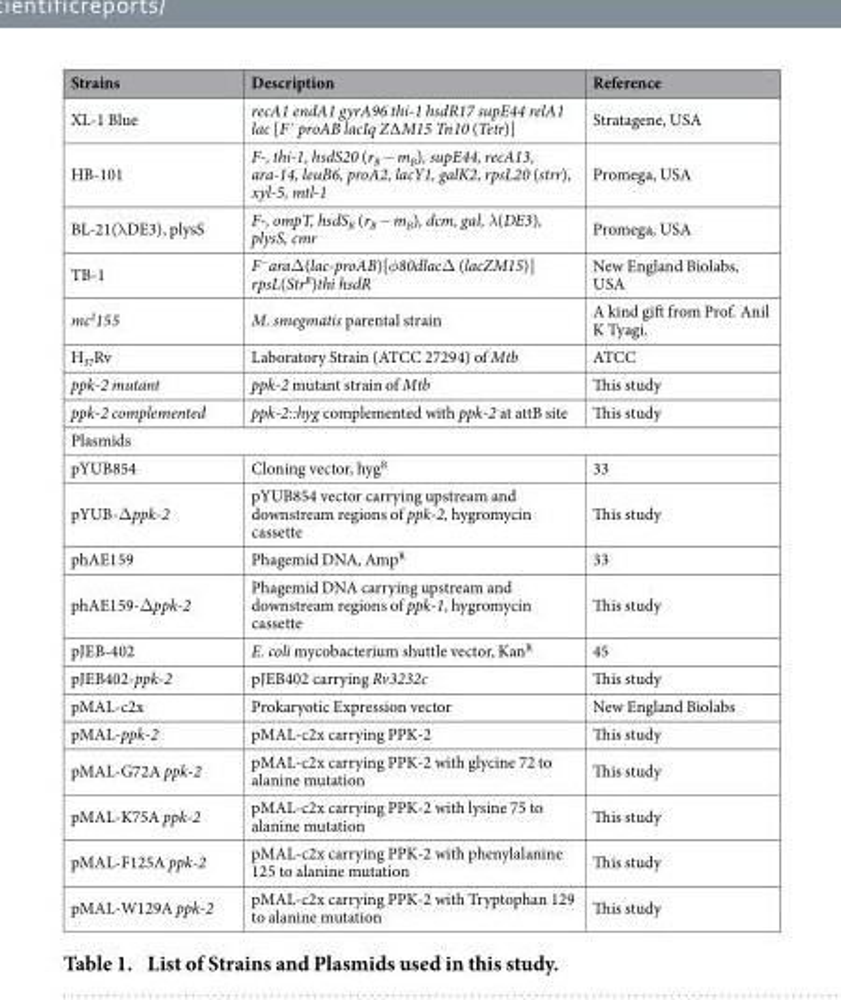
<table><thead><tr><td>Strains</td><td>Description</td><td>Reference</td></tr></thead><tbody><tr><td>XL-1 Blue</td><td>recA1 endA1 gyrA96 thi-1 hsdR17 supE44 relA1 lac [F´ proAB lacIq Z∆M15 Tn10 (Tetr)]</td><td>Stratagene, USA</td></tr><tr><td>HB-101</td><td>F-, thi-1, hsdS20 (r<sub>B</sub> − m<sub>B</sub>), supE44, recA13, ara-14, leuB6, proA2, lacY1, galK2, rpsL20 (strr), xyl-5, mtl-1</td><td>Promega, USA</td></tr><tr><td>BL-21(λDE3), plysS</td><td>F-, ompT, hsdS<sub>B</sub> (r<sub>B</sub> − m<sub>B</sub>), dcm, gal, λ(DE3), plysS, cmr</td><td>Promega, USA</td></tr><tr><td>TB-1</td><td>F<sup>−</sup>araΔ(lac-proAB)[φ80dlacΔ (lacZM15)] rpsL(Str<sup>R</sup>)thi hsdR</td><td>New England Biolabs, USA</td></tr><tr><td>mc<sup>2</sup>155</td><td>M. smegmatis parental strain</td><td>A kind gift from Prof. Anil K Tyagi.</td></tr><tr><td>H<sub>37</sub>Rv</td><td>Laboratory Strain (ATCC 27294) of Mtb</td><td>ATCC</td></tr><tr><td>ppk-2 mutant</td><td>ppk-2 mutant strain of Mtb</td><td>This study</td></tr><tr><td>ppk-2 complemented</td><td>ppk-2::hyg complemented with ppk-2 at attB site</td><td>This study</td></tr><tr><td colspan="3">Plasmids</td></tr><tr><td>pYUB854</td><td>Cloning vector, hyg<sup>R</sup></td><td>33</td></tr><tr><td>pYUB-Δppk-2</td><td>pYUB854 vector carrying upstream and downstream regions of ppk-2, hygromycin cassette</td><td>This study</td></tr><tr><td>phAE159</td><td>Phagemid DNA, Amp<sup>R</sup></td><td>33</td></tr><tr><td>phAE159-Δppk-2</td><td>Phagemid DNA carrying upstream and downstream regions of ppk-1, hygromycin cassette</td><td>This study</td></tr><tr><td>pJEB-402</td><td>E. coli mycobacterium shuttle vector, Kan<sup>R</sup></td><td>45</td></tr><tr><td>pJEB402-ppk-2</td><td>pJEB402 carrying Rv3232c</td><td>This study</td></tr><tr><td>pMAL-c2x</td><td>Prokaryotic Expression vector</td><td>New England Biolabs</td></tr><tr><td>pMAL-ppk-2</td><td>pMAL-c2x carrying PPK-2</td><td>This study</td></tr><tr><td>pMAL-G72A ppk-2</td><td>pMAL-c2x carrying PPK-2 with glycine 72 to alanine mutation</td><td>This study</td></tr><tr><td>pMAL-K75A ppk-2</td><td>pMAL-c2x carrying PPK-2 with lysine 75 to alanine mutation</td><td>This study</td></tr><tr><td>pMAL-F125A ppk-2</td><td>pMAL-c2x carrying PPK-2 with phenylalanine 125 to alanine mutation</td><td>This study</td></tr><tr><td>pMAL-W129A ppk-2</td><td>pMAL-c2x carrying PPK-2 with Tryptophan 129 to alanine mutation</td><td>This study</td></tr></tbody></table>